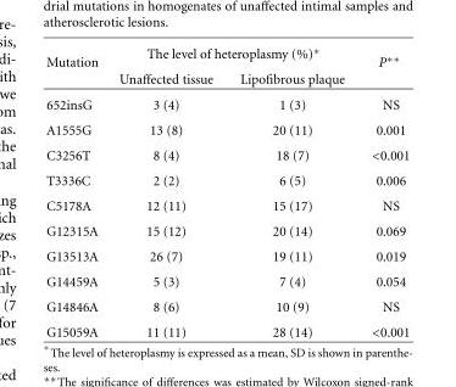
<table><thead><tr><td rowspan="2">Mutation</td><td colspan="2">The level of heteroplasmy (%)∗</td><td rowspan="2">P∗∗</td></tr><tr><td>Unaffected tissue</td><td>Lipofibrous plaque</td></tr></thead><tbody><tr><td>652insG</td><td>3 (4)</td><td>1 (3)</td><td>NS</td></tr><tr><td>A1555G</td><td>13 (8)</td><td>20 (11)</td><td>0.001</td></tr><tr><td>C3256T</td><td>8 (4)</td><td>18 (7)</td><td>&lt;0.001</td></tr><tr><td>T3336C</td><td>2 (2)</td><td>6 (5)</td><td>0.006</td></tr><tr><td>C5178A</td><td>12 (11)</td><td>15 (17)</td><td>NS</td></tr><tr><td>G12315A</td><td>15 (12)</td><td>20 (14)</td><td>0.069</td></tr><tr><td>G13513A</td><td>26 (7)</td><td>19 (11)</td><td>0.019</td></tr><tr><td>G14459A</td><td>5 (3)</td><td>7 (4)</td><td>0.054</td></tr><tr><td>G14846A</td><td>8 (6)</td><td>10 (9)</td><td>NS</td></tr><tr><td>G15059A</td><td>11 (11)</td><td>28 (14)</td><td>&lt;0.001</td></tr></tbody></table>